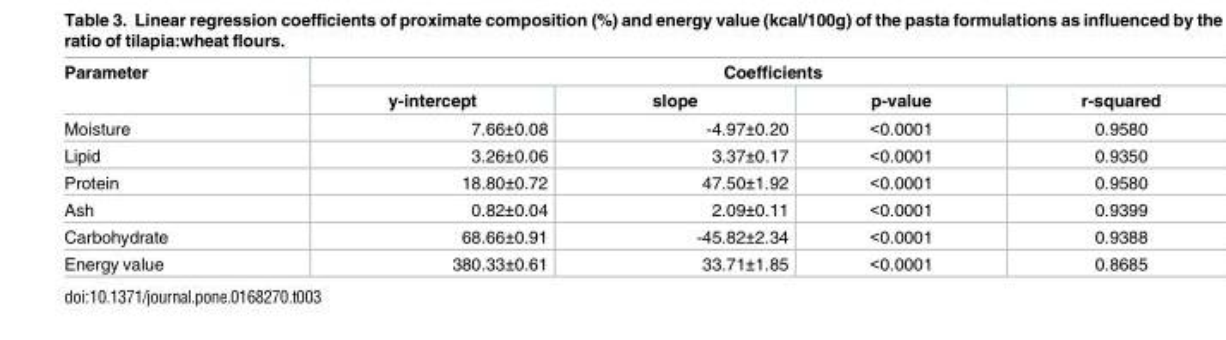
<table><thead><tr><td rowspan="2">Parameter</td><td colspan="4">Coefficients</td></tr><tr><td>y-intercept</td><td>slope</td><td>p-value</td><td>r-squared</td></tr></thead><tbody><tr><td>Moisture</td><td>7.66±0.08</td><td>-4.97±0.20</td><td>&lt;0.0001</td><td>0.9580</td></tr><tr><td>Lipid</td><td>3.26±0.06</td><td>3.37±0.17</td><td>&lt;0.0001</td><td>0.9350</td></tr><tr><td>Protein</td><td>18.80±0.72</td><td>47.50±1.92</td><td>&lt;0.0001</td><td>0.9580</td></tr><tr><td>Ash</td><td>0.82±0.04</td><td>2.09±0.11</td><td>&lt;0.0001</td><td>0.9399</td></tr><tr><td>Carbohydrate</td><td>68.66±0.91</td><td>-45.82±2.34</td><td>&lt;0.0001</td><td>0.9388</td></tr><tr><td>Energy value</td><td>380.33±0.61</td><td>33.71±1.85</td><td>&lt;0.0001</td><td>0.8685</td></tr></tbody></table>